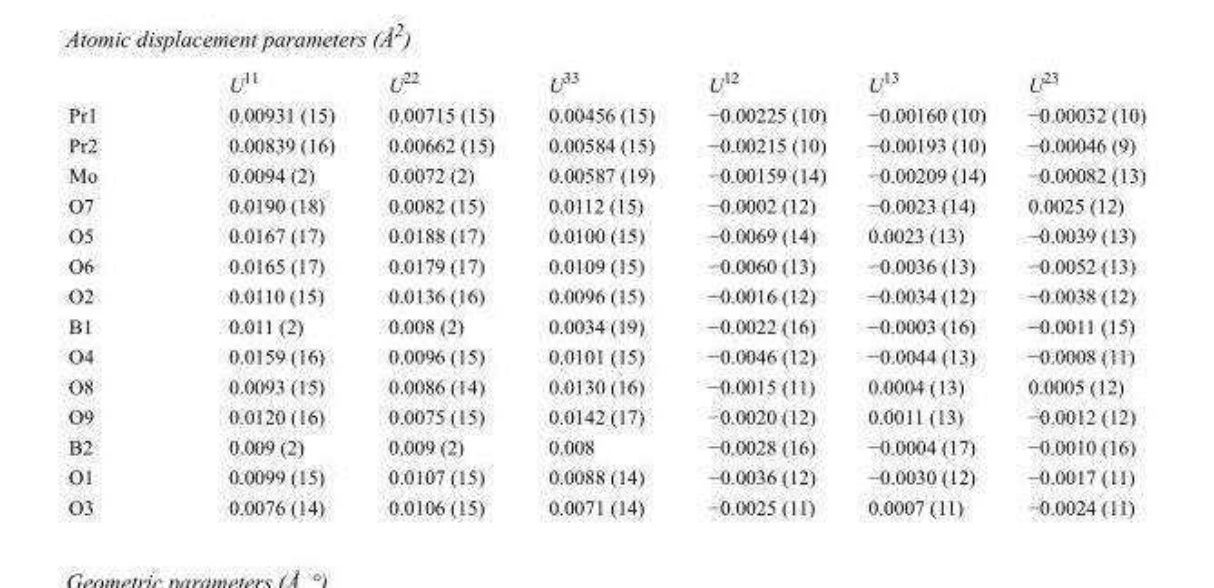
<table><thead><tr><td></td><td>U<sup>11</sup></td><td>U<sup>22</sup></td><td>U<sup>33</sup></td><td>U<sup>12</sup></td><td>U<sup>13</sup></td><td>U<sup>23</sup></td></tr></thead><tbody><tr><td>Pr1</td><td>0.00931 (15)</td><td>0.00715 (15)</td><td>0.00456 (15)</td><td>−0.00225 (10)</td><td>−0.00160 (10)</td><td>−0.00032 (10)</td></tr><tr><td>Pr2</td><td>0.00839 (16)</td><td>0.00662 (15)</td><td>0.00584 (15)</td><td>−0.00215 (10)</td><td>−0.00193 (10)</td><td>−0.00046 (9)</td></tr><tr><td>Mo</td><td>0.0094 (2)</td><td>0.0072 (2)</td><td>0.00587 (19)</td><td>−0.00159 (14)</td><td>−0.00209 (14)</td><td>−0.00082 (13)</td></tr><tr><td>O7</td><td>0.0190 (18)</td><td>0.0082 (15)</td><td>0.0112 (15)</td><td>−0.0002 (12)</td><td>−0.0023 (14)</td><td>0.0025 (12)</td></tr><tr><td>O5</td><td>0.0167 (17)</td><td>0.0188 (17)</td><td>0.0100 (15)</td><td>−0.0069 (14)</td><td>0.0023 (13)</td><td>−0.0039 (13)</td></tr><tr><td>O6</td><td>0.0165 (17)</td><td>0.0179 (17)</td><td>0.0109 (15)</td><td>−0.0060 (13)</td><td>−0.0036 (13)</td><td>−0.0052 (13)</td></tr><tr><td>O2</td><td>0.0110 (15)</td><td>0.0136 (16)</td><td>0.0096 (15)</td><td>−0.0016 (12)</td><td>−0.0034 (12)</td><td>−0.0038 (12)</td></tr><tr><td>B1</td><td>0.011 (2)</td><td>0.008 (2)</td><td>0.0034 (19)</td><td>−0.0022 (16)</td><td>−0.0003 (16)</td><td>−0.0011 (15)</td></tr><tr><td>O4</td><td>0.0159 (16)</td><td>0.0096 (15)</td><td>0.0101 (15)</td><td>−0.0046 (12)</td><td>−0.0044 (13)</td><td>−0.0008 (11)</td></tr><tr><td>O8</td><td>0.0093 (15)</td><td>0.0086 (14)</td><td>0.0130 (16)</td><td>−0.0015 (11)</td><td>0.0004 (13)</td><td>0.0005 (12)</td></tr><tr><td>O9</td><td>0.0120 (16)</td><td>0.0075 (15)</td><td>0.0142 (17)</td><td>−0.0020 (12)</td><td>0.0011 (13)</td><td>−0.0012 (12)</td></tr><tr><td>B2</td><td>0.009 (2)</td><td>0.009 (2)</td><td>0.008</td><td>−0.0028 (16)</td><td>−0.0004 (17)</td><td>−0.0010 (16)</td></tr><tr><td>O1</td><td>0.0099 (15)</td><td>0.0107 (15)</td><td>0.0088 (14)</td><td>−0.0036 (12)</td><td>−0.0030 (12)</td><td>−0.0017 (11)</td></tr><tr><td>O3</td><td>0.0076 (14)</td><td>0.0106 (15)</td><td>0.0071 (14)</td><td>−0.0025 (11)</td><td>0.0007 (11)</td><td>−0.0024 (11)</td></tr></tbody></table>